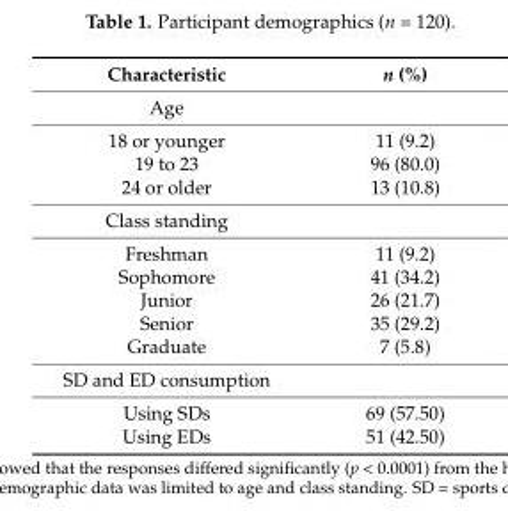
<table><thead><tr><td>Characteristic</td><td>n (%)</td></tr></thead><tbody><tr><td colspan="2">Age</td></tr><tr><td>18 or younger</td><td>11 (9.2)</td></tr><tr><td>19 to 23</td><td>96 (80.0)</td></tr><tr><td>24 or older</td><td>13 (10.8)</td></tr><tr><td colspan="2">Class standing</td></tr><tr><td>Freshman</td><td>11 (9.2)</td></tr><tr><td>Sophomore</td><td>41 (34.2)</td></tr><tr><td>Junior</td><td>26 (21.7)</td></tr><tr><td>Senior</td><td>35 (29.2)</td></tr><tr><td>Graduate</td><td>7 (5.8)</td></tr><tr><td colspan="2">SD and ED consumption</td></tr><tr><td>Using SDs</td><td>69 (57.50)</td></tr><tr><td>Using EDs</td><td>51 (42.50)</td></tr></tbody></table>